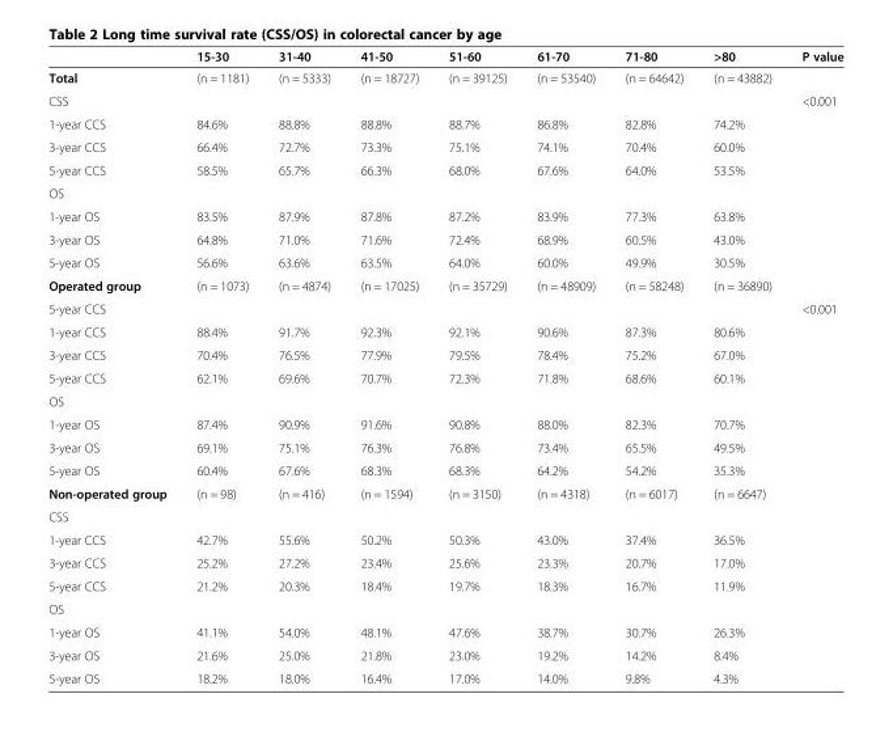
<table><thead><tr><td></td><td>15-30</td><td>31-40</td><td>41-50</td><td>51-60</td><td>61-70</td><td>71-80</td><td>&gt;80</td><td>P value</td></tr></thead><tbody><tr><td>Total</td><td>(n = 1181)</td><td>(n = 5333)</td><td>(n = 18727)</td><td>(n = 39125)</td><td>(n = 53540)</td><td>(n = 64642)</td><td>(n = 43882)</td><td></td></tr><tr><td>CSS</td><td></td><td></td><td></td><td></td><td></td><td></td><td></td><td>&lt;0.001</td></tr><tr><td>1-year CCS</td><td>84.6%</td><td>88.8%</td><td>88.8%</td><td>88.7%</td><td>86.8%</td><td>82.8%</td><td>74.2%</td><td></td></tr><tr><td>3-year CCS</td><td>66.4%</td><td>72.7%</td><td>73.3%</td><td>75.1%</td><td>74.1%</td><td>70.4%</td><td>60.0%</td><td></td></tr><tr><td>5-year CCS</td><td>58.5%</td><td>65.7%</td><td>66.3%</td><td>68.0%</td><td>67.6%</td><td>64.0%</td><td>53.5%</td><td></td></tr><tr><td colspan="9">OS</td></tr><tr><td>1-year OS</td><td>83.5%</td><td>87.9%</td><td>87.8%</td><td>87.2%</td><td>83.9%</td><td>77.3%</td><td>63.8%</td><td></td></tr><tr><td>3-year OS</td><td>64.8%</td><td>71.0%</td><td>71.6%</td><td>72.4%</td><td>68.9%</td><td>60.5%</td><td>43.0%</td><td></td></tr><tr><td>5-year OS</td><td>56.6%</td><td>63.6%</td><td>63.5%</td><td>64.0%</td><td>60.0%</td><td>49.9%</td><td>30.5%</td><td></td></tr><tr><td>Operated group</td><td>(n = 1073)</td><td>(n = 4874)</td><td>(n = 17025)</td><td>(n = 35729)</td><td>(n = 48909)</td><td>(n = 58248)</td><td>(n = 36890)</td><td></td></tr><tr><td>5-year CCS</td><td></td><td></td><td></td><td></td><td></td><td></td><td></td><td>&lt;0.001</td></tr><tr><td>1-year CCS</td><td>88.4%</td><td>91.7%</td><td>92.3%</td><td>92.1%</td><td>90.6%</td><td>87.3%</td><td>80.6%</td><td></td></tr><tr><td>3-year CCS</td><td>70.4%</td><td>76.5%</td><td>77.9%</td><td>79.5%</td><td>78.4%</td><td>75.2%</td><td>67.0%</td><td></td></tr><tr><td>5-year CCS</td><td>62.1%</td><td>69.6%</td><td>70.7%</td><td>72.3%</td><td>71.8%</td><td>68.6%</td><td>60.1%</td><td></td></tr><tr><td colspan="9">OS</td></tr><tr><td>1-year OS</td><td>87.4%</td><td>90.9%</td><td>91.6%</td><td>90.8%</td><td>88.0%</td><td>82.3%</td><td>70.7%</td><td></td></tr><tr><td>3-year OS</td><td>69.1%</td><td>75.1%</td><td>76.3%</td><td>76.8%</td><td>73.4%</td><td>65.5%</td><td>49.5%</td><td></td></tr><tr><td>5-year OS</td><td>60.4%</td><td>67.6%</td><td>68.3%</td><td>68.3%</td><td>64.2%</td><td>54.2%</td><td>35.3%</td><td></td></tr><tr><td>Non-operated group</td><td>(n = 98)</td><td>(n = 416)</td><td>(n = 1594)</td><td>(n = 3150)</td><td>(n = 4318)</td><td>(n = 6017)</td><td>(n = 6647)</td><td></td></tr><tr><td colspan="9">CSS</td></tr><tr><td>1-year CCS</td><td>42.7%</td><td>55.6%</td><td>50.2%</td><td>50.3%</td><td>43.0%</td><td>37.4%</td><td>36.5%</td><td></td></tr><tr><td>3-year CCS</td><td>25.2%</td><td>27.2%</td><td>23.4%</td><td>25.6%</td><td>23.3%</td><td>20.7%</td><td>17.0%</td><td></td></tr><tr><td>5-year CCS</td><td>21.2%</td><td>20.3%</td><td>18.4%</td><td>19.7%</td><td>18.3%</td><td>16.7%</td><td>11.9%</td><td></td></tr><tr><td colspan="9">OS</td></tr><tr><td>1-year OS</td><td>41.1%</td><td>54.0%</td><td>48.1%</td><td>47.6%</td><td>38.7%</td><td>30.7%</td><td>26.3%</td><td></td></tr><tr><td>3-year OS</td><td>21.6%</td><td>25.0%</td><td>21.8%</td><td>23.0%</td><td>19.2%</td><td>14.2%</td><td>8.4%</td><td></td></tr><tr><td>5-year OS</td><td>18.2%</td><td>18.0%</td><td>16.4%</td><td>17.0%</td><td>14.0%</td><td>9.8%</td><td>4.3%</td><td></td></tr></tbody></table>